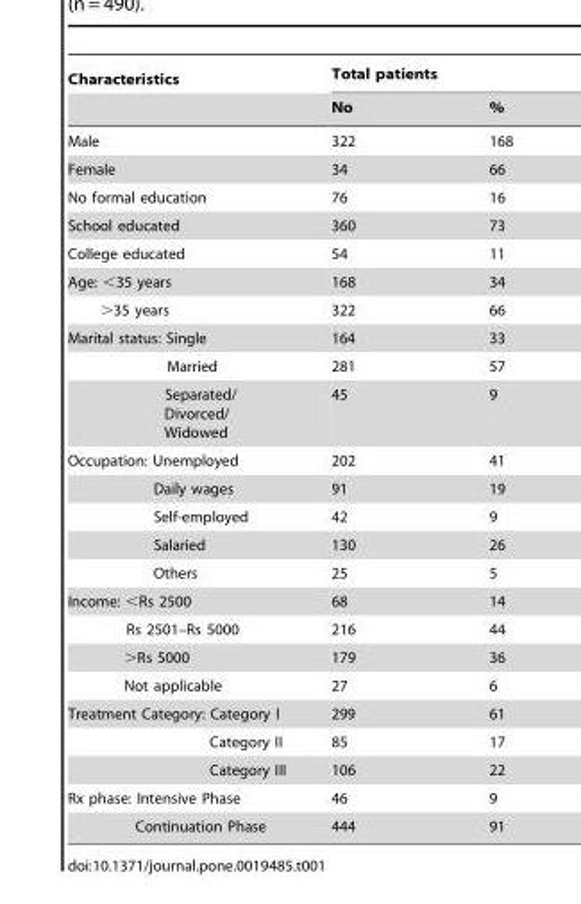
<table><thead><tr><td rowspan="2">Characteristics</td><td colspan="2">Total patients</td></tr><tr><td>No</td><td>%</td></tr></thead><tbody><tr><td>Male</td><td>322</td><td>168</td></tr><tr><td>Female</td><td>34</td><td>66</td></tr><tr><td>No formal education</td><td>76</td><td>16</td></tr><tr><td>School educated</td><td>360</td><td>73</td></tr><tr><td>College educated</td><td>54</td><td>11</td></tr><tr><td>Age: &lt;35 years</td><td>168</td><td>34</td></tr><tr><td>&gt;35 years</td><td>322</td><td>66</td></tr><tr><td>Marital status: Single</td><td>164</td><td>33</td></tr><tr><td>Married</td><td>281</td><td>57</td></tr><tr><td>Separated/ Divorced/ Widowed</td><td>45</td><td>9</td></tr><tr><td>Occupation: Unemployed</td><td>202</td><td>41</td></tr><tr><td>Daily wages</td><td>91</td><td>19</td></tr><tr><td>Self-employed</td><td>42</td><td>9</td></tr><tr><td>Salaried</td><td>130</td><td>26</td></tr><tr><td>Others</td><td>25</td><td>5</td></tr><tr><td>Income: &lt;Rs 2500</td><td>68</td><td>14</td></tr><tr><td>Rs 2501–Rs 5000</td><td>216</td><td>44</td></tr><tr><td>&gt;Rs 5000</td><td>179</td><td>36</td></tr><tr><td>Not applicable</td><td>27</td><td>6</td></tr><tr><td>Treatment Category: Category I</td><td>299</td><td>61</td></tr><tr><td>Category II</td><td>85</td><td>17</td></tr><tr><td>Category III</td><td>106</td><td>22</td></tr><tr><td>Rx phase: Intensive Phase</td><td>46</td><td>9</td></tr><tr><td>Continuation Phase</td><td>444</td><td>91</td></tr></tbody></table>